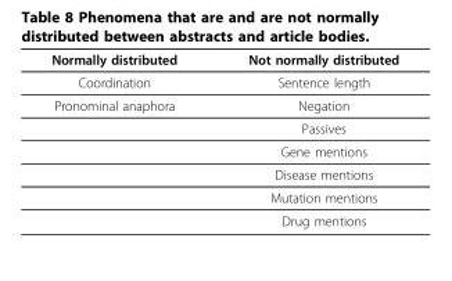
<table><thead><tr><td>Normally distributed</td><td>Not normally distributed</td></tr></thead><tbody><tr><td>Coordination</td><td>Sentence length</td></tr><tr><td rowspan="6">Pronominal anaphora</td><td>Negation</td></tr><tr><td>Passives</td></tr><tr><td>Gene mentions</td></tr><tr><td>Disease mentions</td></tr><tr><td>Mutation mentions</td></tr><tr><td>Drug mentions</td></tr></tbody></table>